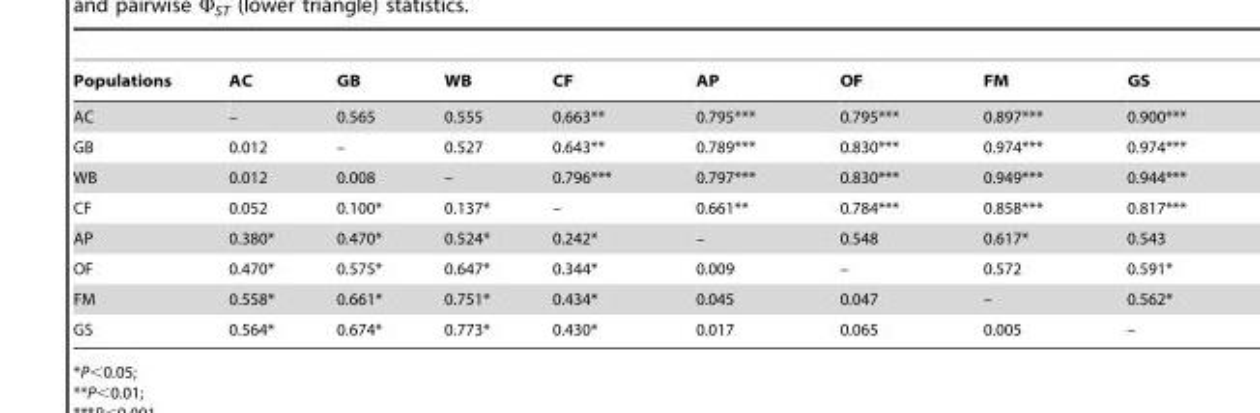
<table><thead><tr><td>Populations</td><td>AC</td><td>GB</td><td>WB</td><td>CF</td><td>AP</td><td>OF</td><td>FM</td><td>GS</td></tr></thead><tbody><tr><td>AC</td><td>–</td><td>0.565</td><td>0.555</td><td>0.663**</td><td>0.795***</td><td>0.795***</td><td>0.897***</td><td>0.900***</td></tr><tr><td>GB</td><td>0.012</td><td>–</td><td>0.527</td><td>0.643**</td><td>0.789***</td><td>0.830***</td><td>0.974***</td><td>0.974***</td></tr><tr><td>WB</td><td>0.012</td><td>0.008</td><td>–</td><td>0.796***</td><td>0.797***</td><td>0.830***</td><td>0.949***</td><td>0.944***</td></tr><tr><td>CF</td><td>0.052</td><td>0.100*</td><td>0.137*</td><td>–</td><td>0.661**</td><td>0.784***</td><td>0.858***</td><td>0.817***</td></tr><tr><td>AP</td><td>0.380*</td><td>0.470*</td><td>0.524*</td><td>0.242*</td><td>–</td><td>0.548</td><td>0.617*</td><td>0.543</td></tr><tr><td>OF</td><td>0.470*</td><td>0.575*</td><td>0.647*</td><td>0.344*</td><td>0.009</td><td>–</td><td>0.572</td><td>0.591*</td></tr><tr><td>FM</td><td>0.558*</td><td>0.661*</td><td>0.751*</td><td>0.434*</td><td>0.045</td><td>0.047</td><td>–</td><td>0.562*</td></tr><tr><td>GS</td><td>0.564*</td><td>0.674*</td><td>0.773*</td><td>0.430*</td><td>0.017</td><td>0.065</td><td>0.005</td><td>–</td></tr></tbody></table>